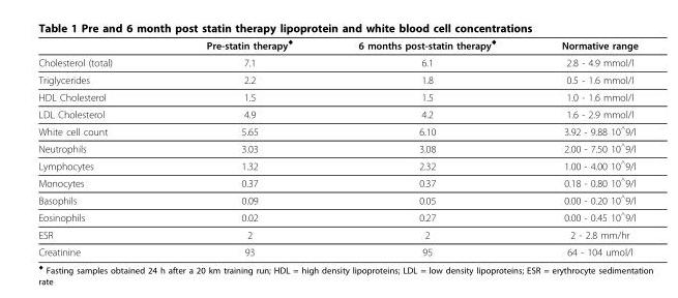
<table><thead><tr><td></td><td>Pre-statin therapy<sup>♦</sup></td><td>6 months post-statin therapy<sup>♦</sup></td><td>Normative range</td></tr></thead><tbody><tr><td>Cholesterol (total)</td><td>7.1</td><td>6.1</td><td>2.8 - 4.9 mmol/l</td></tr><tr><td>Triglycerides</td><td>2.2</td><td>1.8</td><td>0.5 - 1.6 mmol/l</td></tr><tr><td>HDL Cholesterol</td><td>1.5</td><td>1.5</td><td>1.0 - 1.6 mmol/l</td></tr><tr><td>LDL Cholesterol</td><td>4.9</td><td>4.2</td><td>1.6 - 2.9 mmol/l</td></tr><tr><td>White cell count</td><td>5.65</td><td>6.10</td><td>3.92 - 9.88 10<sup>^</sup>9/l</td></tr><tr><td>Neutrophils</td><td>3.03</td><td>3.08</td><td>2.00 - 7.50 10<sup>^</sup>9/l</td></tr><tr><td>Lymphocytes</td><td>1.32</td><td>2.32</td><td>1.00 - 4.00 10<sup>^</sup>9/l</td></tr><tr><td>Monocytes</td><td>0.37</td><td>0.37</td><td>0.18 - 0.80 10<sup>^</sup>9/l</td></tr><tr><td>Basophils</td><td>0.09</td><td>0.05</td><td>0.00 - 0.20 10<sup>^</sup>9/l</td></tr><tr><td>Eosinophils</td><td>0.02</td><td>0.27</td><td>0.00 - 0.45 10<sup>^</sup>9/l</td></tr><tr><td>ESR</td><td>2</td><td>2</td><td>2 - 2.8 mm/hr</td></tr><tr><td>Creatinine</td><td>93</td><td>95</td><td>64 - 104 umol/l</td></tr></tbody></table>